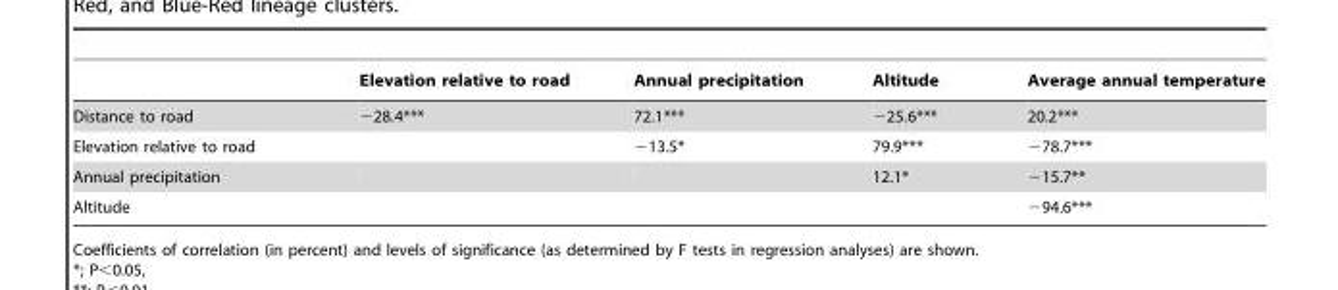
<table><thead><tr><td></td><td>Elevation relative to road</td><td>Annual precipitation</td><td>Altitude</td><td>Average annual temperature</td></tr></thead><tbody><tr><td>Distance to road</td><td>−28.4***</td><td>72.1***</td><td>−25.6***</td><td>20.2***</td></tr><tr><td>Elevation relative to road</td><td></td><td>−13.5*</td><td>79.9***</td><td>−78.7***</td></tr><tr><td>Annual precipitation</td><td></td><td></td><td>12.1*</td><td>−15.7**</td></tr><tr><td>Altitude</td><td></td><td></td><td></td><td>−94.6***</td></tr></tbody></table>